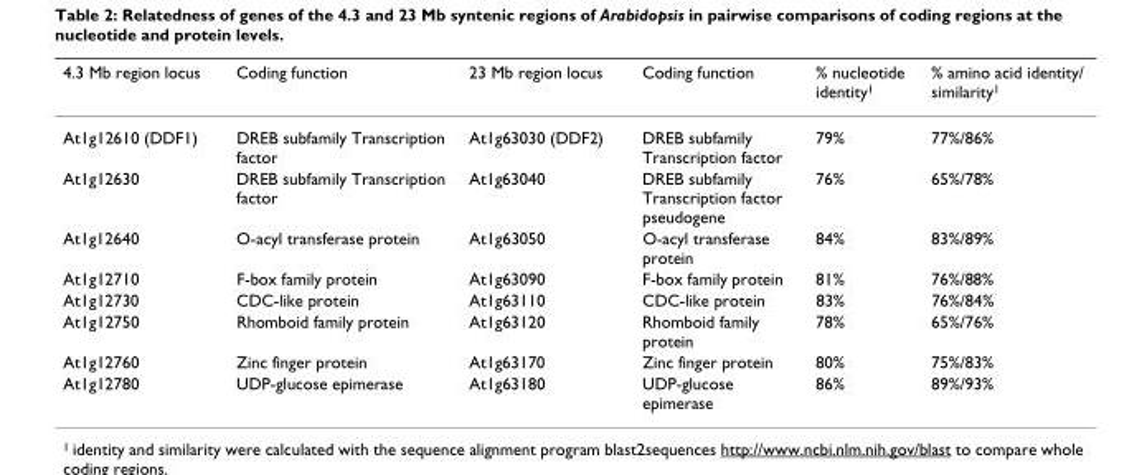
<table><thead><tr><td>4.3 Mb region locus</td><td>Coding function</td><td>23 Mb region locus</td><td>Coding function</td><td>% nucleotide identity1</td><td>% amino acid identity/ similarity1</td></tr></thead><tbody><tr><td>At1g12610 (DDF1)</td><td>DREB subfamily Transcription factor</td><td>At1g63030 (DDF2)</td><td>DREB subfamily Transcription factor</td><td>79%</td><td>77%/86%</td></tr><tr><td>At1g12630</td><td>DREB subfamily Transcription factor</td><td>At1g63040</td><td>DREB subfamily Transcription factor pseudogene</td><td>76%</td><td>65%/78%</td></tr><tr><td>At1g12640</td><td>O-acyl transferase protein</td><td>At1g63050</td><td>O-acyl transferase protein</td><td>84%</td><td>83%/89%</td></tr><tr><td>At1g12710</td><td>F-box family protein</td><td>At1g63090</td><td>F-box family protein</td><td>81%</td><td>76%/88%</td></tr><tr><td>At1g12730</td><td>CDC-like protein</td><td>At1g63110</td><td>CDC-like protein</td><td>83%</td><td>76%/84%</td></tr><tr><td>At1g12750</td><td>Rhomboid family protein</td><td>At1g63120</td><td>Rhomboid family protein</td><td>78%</td><td>65%/76%</td></tr><tr><td>At1g12760</td><td>Zinc finger protein</td><td>At1g63170</td><td>Zinc finger protein</td><td>80%</td><td>75%/83%</td></tr><tr><td>At1g12780</td><td>UDP-glucose epimerase</td><td>At1g63180</td><td>UDP-glucose epimerase</td><td>86%</td><td>89%/93%</td></tr></tbody></table>